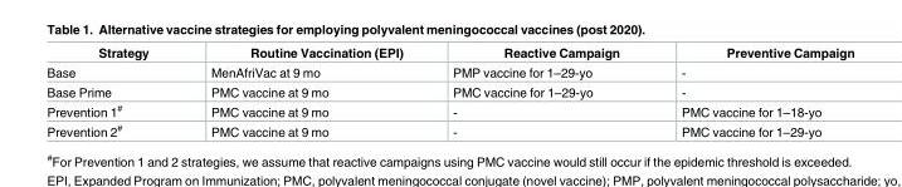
<table><thead><tr><td>Strategy</td><td>Routine Vaccination (EPI)</td><td>Reactive Campaign</td><td>Preventive Campaign</td></tr></thead><tbody><tr><td>Base</td><td>MenAfriVac at 9 mo</td><td>PMP vaccine for 1–29-yo</td><td>-</td></tr><tr><td>Base Prime</td><td>PMC vaccine at 9 mo</td><td>PMC vaccine for 1–29-yo</td><td>-</td></tr><tr><td>Prevention 1<sup>#</sup></td><td>PMC vaccine at 9 mo</td><td>-</td><td>PMC vaccine for 1–18-yo</td></tr><tr><td>Prevention 2<sup>#</sup></td><td>PMC vaccine at 9 mo</td><td>-</td><td>PMC vaccine for 1–29-yo</td></tr></tbody></table>